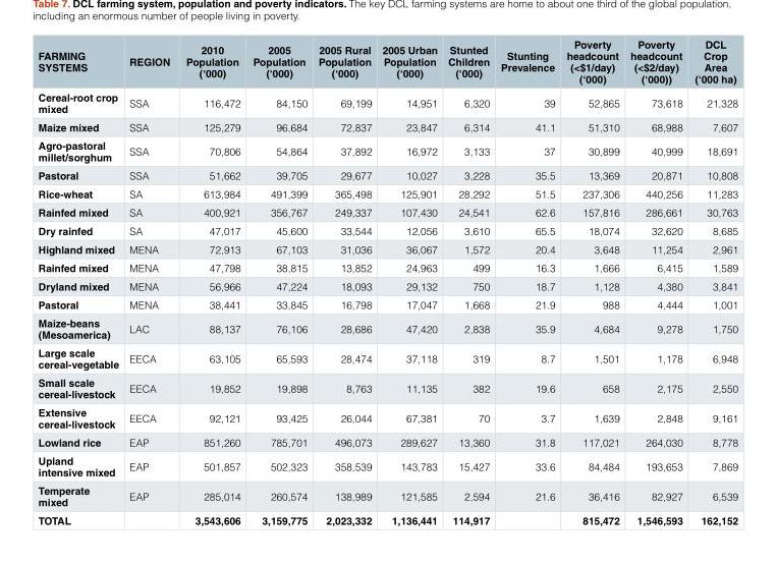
<table><thead><tr><td>FARMING SYSTEMS</td><td>REGION</td><td>2010 Population (‘000)</td><td>2005 Population (‘000)</td><td>2005 Rural Population (‘000)</td><td>2005 Urban Population (‘000)</td><td>Stunted Children (‘000)</td><td>Stunting Prevalence</td><td>Poverty headcount (&lt;$1/day) (‘000)</td><td>Poverty headcount (&lt;$2/day) (‘000))</td><td>DCL Crop Area (‘000 ha)</td></tr></thead><tbody><tr><td>Cereal-root crop mixed</td><td>SSA</td><td>116,472</td><td>84,150</td><td>69,199</td><td>14,951</td><td>6,320</td><td>39</td><td>52,865</td><td>73,618</td><td>21,328</td></tr><tr><td>Maize mixed</td><td>SSA</td><td>125,279</td><td>96,684</td><td>72,837</td><td>23,847</td><td>6,314</td><td>41.1</td><td>51,310</td><td>68,988</td><td>7,607</td></tr><tr><td>Agro-pastoral millet/sorghum</td><td>SSA</td><td>70,806</td><td>54,864</td><td>37,892</td><td>16,972</td><td>3,133</td><td>37</td><td>30,899</td><td>40,999</td><td>18,691</td></tr><tr><td>Pastoral</td><td>SSA</td><td>51,662</td><td>39,705</td><td>29,677</td><td>10,027</td><td>3,228</td><td>35.5</td><td>13,369</td><td>20,871</td><td>10,808</td></tr><tr><td>Rice-wheat</td><td>SA</td><td>613,984</td><td>491,399</td><td>365,498</td><td>125,901</td><td>28,292</td><td>51.5</td><td>237,306</td><td>440,256</td><td>11,283</td></tr><tr><td>Rainfed mixed</td><td>SA</td><td>400,921</td><td>356,767</td><td>249,337</td><td>107,430</td><td>24,541</td><td>62.6</td><td>157,816</td><td>286,661</td><td>30,763</td></tr><tr><td>Dry rainfed</td><td>SA</td><td>47,017</td><td>45,600</td><td>33,544</td><td>12,056</td><td>3,610</td><td>65.5</td><td>18,074</td><td>32,620</td><td>8,685</td></tr><tr><td>Highland mixed</td><td>MENA</td><td>72,913</td><td>67,103</td><td>31,036</td><td>36,067</td><td>1,572</td><td>20.4</td><td>3,648</td><td>11,254</td><td>2,961</td></tr><tr><td>Rainfed mixed</td><td>MENA</td><td>47,798</td><td>38,815</td><td>13,852</td><td>24,963</td><td>499</td><td>16.3</td><td>1,666</td><td>6,415</td><td>1,589</td></tr><tr><td>Dryland mixed</td><td>MENA</td><td>56,966</td><td>47,224</td><td>18,093</td><td>29,132</td><td>750</td><td>18.7</td><td>1,128</td><td>4,380</td><td>3,841</td></tr><tr><td>Pastoral</td><td>MENA</td><td>38,441</td><td>33,845</td><td>16,798</td><td>17,047</td><td>1,668</td><td>21.9</td><td>988</td><td>4,444</td><td>1,001</td></tr><tr><td>Maize-beans (Mesoamerica)</td><td>LAC</td><td>88,137</td><td>76,106</td><td>28,686</td><td>47,420</td><td>2,838</td><td>35.9</td><td>4,684</td><td>9,278</td><td>1,750</td></tr><tr><td>Large scale cereal-vegetable</td><td>EECA</td><td>63,105</td><td>65,593</td><td>28,474</td><td>37,118</td><td>319</td><td>8.7</td><td>1,501</td><td>1,178</td><td>6,948</td></tr><tr><td>Small scale cereal-livestock</td><td>EECA</td><td>19,852</td><td>19,898</td><td>8,763</td><td>11,135</td><td>382</td><td>19.6</td><td>658</td><td>2,175</td><td>2,550</td></tr><tr><td>Extensive cereal-livestock</td><td>EECA</td><td>92,121</td><td>93,425</td><td>26,044</td><td>67,381</td><td>70</td><td>3.7</td><td>1,639</td><td>2,848</td><td>9,161</td></tr><tr><td>Lowland rice</td><td>EAP</td><td>851,260</td><td>785,701</td><td>496,073</td><td>289,627</td><td>13,360</td><td>31.8</td><td>117,021</td><td>264,030</td><td>8,778</td></tr><tr><td>Upland intensive mixed</td><td>EAP</td><td>501,857</td><td>502,323</td><td>358,539</td><td>143,783</td><td>15,427</td><td>33.6</td><td>84,484</td><td>193,653</td><td>7,869</td></tr><tr><td>Temperate mixed</td><td>EAP</td><td>285,014</td><td>260,574</td><td>138,989</td><td>121,585</td><td>2,594</td><td>21.6</td><td>36,416</td><td>82,927</td><td>6,539</td></tr><tr><td>TOTAL</td><td></td><td>3,543,606</td><td>3,159,775</td><td>2,023,332</td><td>1,136,441</td><td>114,917</td><td></td><td>815,472</td><td>1,546,593</td><td>162,152</td></tr></tbody></table>